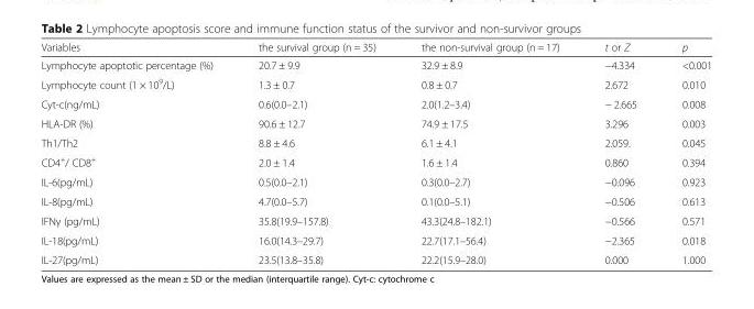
<table><thead><tr><td>Variables</td><td>the survival group (n = 35)</td><td>the non-survival group (n = 17)</td><td>t or Z</td><td>p</td></tr></thead><tbody><tr><td>Lymphocyte apoptotic percentage (%)</td><td>20.7 ± 9.9</td><td>32.9 ± 8.9</td><td>−4.334</td><td>&lt;0.001</td></tr><tr><td>Lymphocyte count (1 × 10<sup>9</sup>/L)</td><td>1.3 ± 0.7</td><td>0.8 ± 0.7</td><td>2.672</td><td>0.010</td></tr><tr><td>Cyt-c(ng/mL)</td><td>0.6(0.0–2.1)</td><td>2.0(1.2–3.4)</td><td>− 2.665</td><td>0.008</td></tr><tr><td>HLA-DR (%)</td><td>90.6 ± 12.7</td><td>74.9 ± 17.5</td><td>3.296</td><td>0.003</td></tr><tr><td>Th1/Th2</td><td>8.8 ± 4.6</td><td>6.1 ± 4.1</td><td>2.059.</td><td>0.045</td></tr><tr><td>CD4<sup>+</sup>/ CD8<sup>+</sup></td><td>2.0 ± 1.4</td><td>1.6 ± 1.4</td><td>0.860</td><td>0.394</td></tr><tr><td>IL-6(pg/mL)</td><td>0.5(0.0–2.1)</td><td>0.3(0.0–2.7)</td><td>−0.096</td><td>0.923</td></tr><tr><td>IL-8(pg/mL)</td><td>4.7(0.0–5.7)</td><td>0.1(0.0–5.1)</td><td>−0.506</td><td>0.613</td></tr><tr><td>IFNγ (pg/mL)</td><td>35.8(19.9–157.8)</td><td>43.3(24.8–182.1)</td><td>−0.566</td><td>0.571</td></tr><tr><td>IL-18(pg/mL)</td><td>16.0(14.3–29.7)</td><td>22.7(17.1–56.4)</td><td>−2.365</td><td>0.018</td></tr><tr><td>IL-27(pg/mL)</td><td>23.5(13.8–35.8)</td><td>22.2(15.9–28.0)</td><td>0.000</td><td>1.000</td></tr></tbody></table>